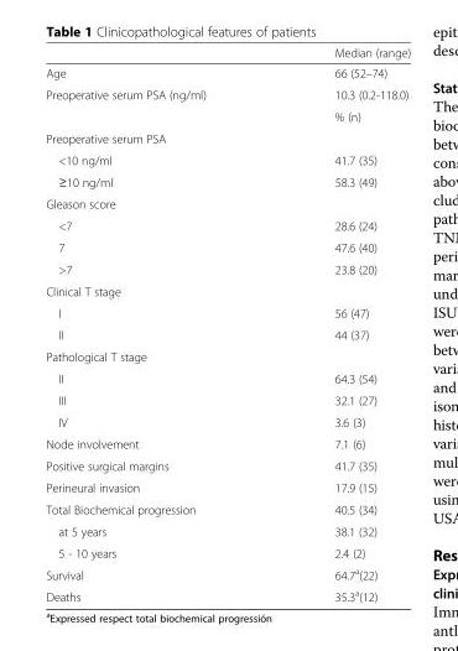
<table><thead><tr><td></td><td>Median (range)</td></tr></thead><tbody><tr><td>Age</td><td>66 (52–74)</td></tr><tr><td rowspan="2">Preoperative serum PSA (ng/ml)</td><td>10.3 (0.2-118.0)</td></tr><tr><td>% (n)</td></tr><tr><td colspan="2">Preoperative serum PSA</td></tr><tr><td>&lt;10 ng/ml</td><td>41.7 (35)</td></tr><tr><td>≥10 ng/ml</td><td>58.3 (49)</td></tr><tr><td colspan="2">Gleason score</td></tr><tr><td>&lt;7</td><td>28.6 (24)</td></tr><tr><td>7</td><td>47.6 (40)</td></tr><tr><td>&gt;7</td><td>23.8 (20)</td></tr><tr><td colspan="2">Clinical T stage</td></tr><tr><td>I</td><td>56 (47)</td></tr><tr><td>II</td><td>44 (37)</td></tr><tr><td colspan="2">Pathological T stage</td></tr><tr><td>II</td><td>64.3 (54)</td></tr><tr><td>III</td><td>32.1 (27)</td></tr><tr><td>IV</td><td>3.6 (3)</td></tr><tr><td>Node involvement</td><td>7.1 (6)</td></tr><tr><td>Positive surgical margins</td><td>41.7 (35)</td></tr><tr><td>Perineural invasion</td><td>17.9 (15)</td></tr><tr><td>Total Biochemical progression</td><td>40.5 (34)</td></tr><tr><td>at 5 years</td><td>38.1 (32)</td></tr><tr><td>5 - 10 years</td><td>2.4 (2)</td></tr><tr><td>Survival</td><td>64.7<sup>a</sup>(22)</td></tr><tr><td>Deaths</td><td>35.3<sup>a</sup>(12)</td></tr></tbody></table>